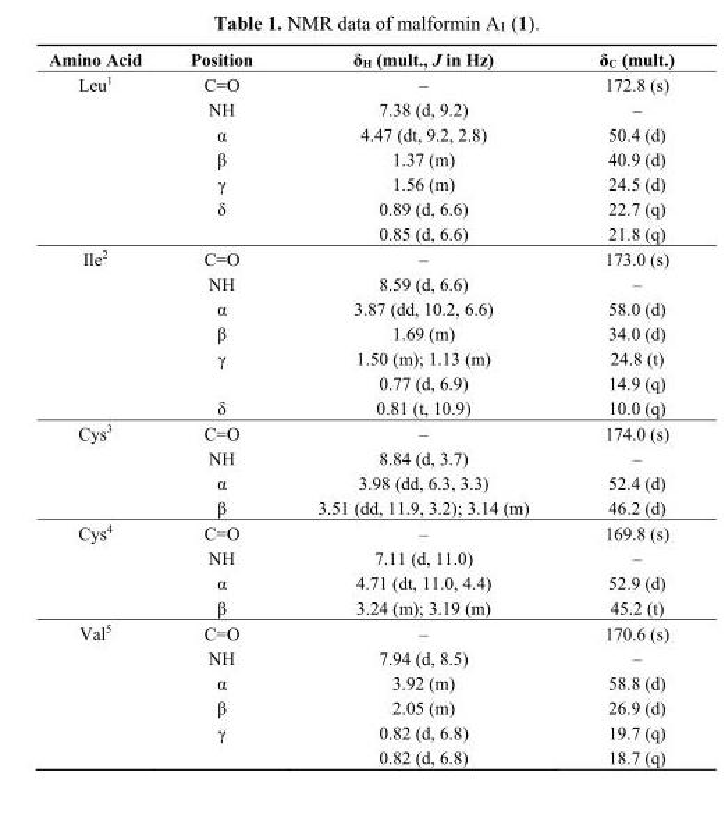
<table><thead><tr><td>Amino Acid</td><td>Position</td><td>δ<sub>H</sub> (mult., J in Hz)</td><td>δ<sub>C</sub> (mult.)</td></tr></thead><tbody><tr><td rowspan="7">Leu<sup>1</sup></td><td>C=O</td><td>–</td><td>172.8 (s)</td></tr><tr><td>NH</td><td>7.38 (d, 9.2)</td><td>–</td></tr><tr><td>α</td><td>4.47 (dt, 9.2, 2.8)</td><td>50.4 (d)</td></tr><tr><td>β</td><td>1.37 (m)</td><td>40.9 (d)</td></tr><tr><td>γ</td><td>1.56 (m)</td><td>24.5 (d)</td></tr><tr><td>δ</td><td>0.89 (d, 6.6)</td><td>22.7 (q)</td></tr><tr><td></td><td>0.85 (d, 6.6)</td><td>21.8 (q)</td></tr><tr><td rowspan="7">Ile<sup>2</sup></td><td>C=O</td><td>–</td><td>173.0 (s)</td></tr><tr><td>NH</td><td>8.59 (d, 6.6)</td><td>–</td></tr><tr><td>α</td><td>3.87 (dd, 10.2, 6.6)</td><td>58.0 (d)</td></tr><tr><td>β</td><td>1.69 (m)</td><td>34.0 (d)</td></tr><tr><td>γ</td><td>1.50 (m); 1.13 (m)</td><td>24.8 (t)</td></tr><tr><td></td><td>0.77 (d, 6.9)</td><td>14.9 (q)</td></tr><tr><td>δ</td><td>0.81 (t, 10.9)</td><td>10.0 (q)</td></tr><tr><td rowspan="4">Cys<sup>3</sup></td><td>C=O</td><td>–</td><td>174.0 (s)</td></tr><tr><td>NH</td><td>8.84 (d, 3.7)</td><td>–</td></tr><tr><td>α</td><td>3.98 (dd, 6.3, 3.3)</td><td>52.4 (d)</td></tr><tr><td>β</td><td>3.51 (dd, 11.9, 3.2); 3.14 (m)</td><td>46.2 (d)</td></tr><tr><td rowspan="4">Cys<sup>4</sup></td><td>C=O</td><td>–</td><td>169.8 (s)</td></tr><tr><td>NH</td><td>7.11 (d, 11.0)</td><td>–</td></tr><tr><td>α</td><td>4.71 (dt, 11.0, 4.4)</td><td>52.9 (d)</td></tr><tr><td>β</td><td>3.24 (m); 3.19 (m)</td><td>45.2 (t)</td></tr><tr><td rowspan="6">Val<sup>5</sup></td><td>C=O</td><td>–</td><td>170.6 (s)</td></tr><tr><td>NH</td><td>7.94 (d, 8.5)</td><td>–</td></tr><tr><td>α</td><td>3.92 (m)</td><td>58.8 (d)</td></tr><tr><td>β</td><td>2.05 (m)</td><td>26.9 (d)</td></tr><tr><td>γ</td><td>0.82 (d, 6.8)</td><td>19.7 (q)</td></tr><tr><td></td><td>0.82 (d, 6.8)</td><td>18.7 (q)</td></tr></tbody></table>